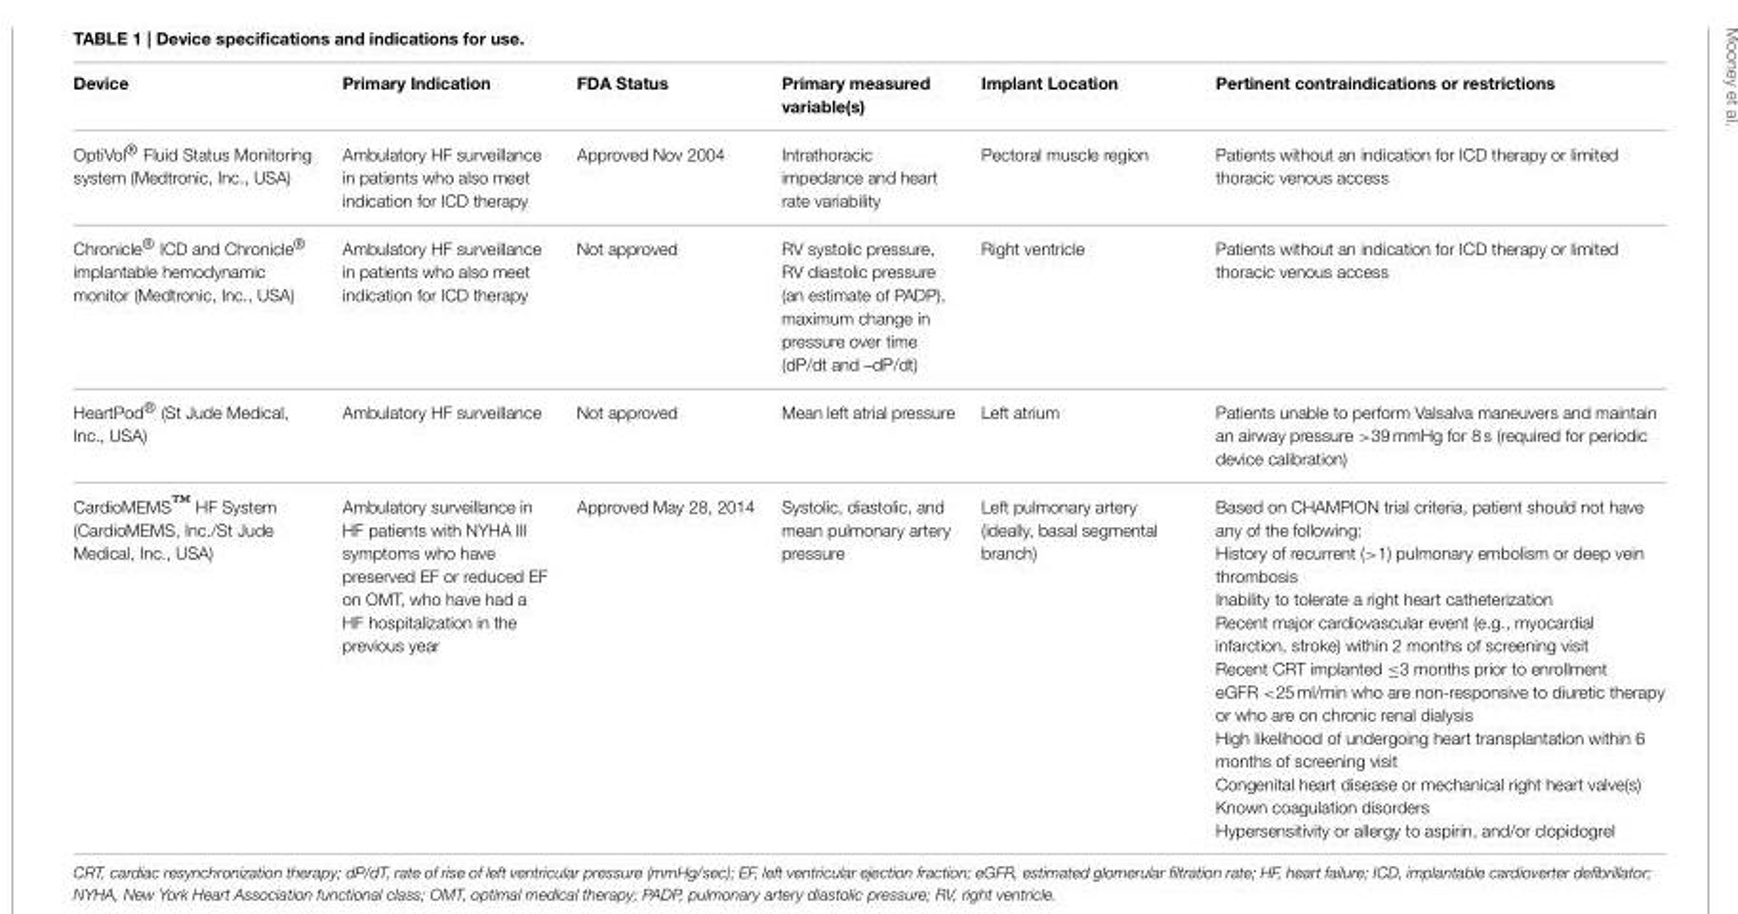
<table><thead><tr><td>Device</td><td>Primary Indication</td><td>FDA Status</td><td>Primary measured variable(s)</td><td>Implant Location</td><td>Pertinent contraindications or restrictions</td></tr></thead><tbody><tr><td>OptiVol® Fluid Status Monitoring system (Medtronic, Inc., USA)</td><td>Ambulatory HF surveillance in patients who also meet indication for ICD therapy</td><td>Approved Nov 2004</td><td>Intrathoracic impedance and heart rate variability</td><td>Pectoral muscle region</td><td>Patients without an indication for ICD therapy or limited thoracic venous access</td></tr><tr><td>Chronicle® ICD and Chronicle® implantable hemodynamic monitor (Medtronic, Inc., USA)</td><td>Ambulatory HF surveillance in patients who also meet indication for ICD therapy</td><td>Not approved</td><td>RV systolic pressure, RV diastolic pressure (an estimate of PADP), maximum change in pressure over time (dP/dt and –dP/dt)</td><td>Right ventricle</td><td>Patients without an indication for ICD therapy or limited thoracic venous access</td></tr><tr><td>HeartPod® (St Jude Medical, Inc., USA)</td><td>Ambulatory HF surveillance</td><td>Not approved</td><td>Mean left atrial pressure</td><td>Left atrium</td><td>Patients unable to perform Valsalva maneuvers and maintain an airway pressure &gt;39 mmHg for 8 s (required for periodic device calibration)</td></tr><tr><td>CardioMEMS™ HF System (CardioMEMS, Inc./St Jude Medical, Inc., USA)</td><td>Ambulatory surveillance in HF patients with NYHA III symptoms who have preserved EF or reduced EF on OMT, who have had a HF hospitalization in the previous year</td><td>Approved May 28, 2014</td><td>Systolic, diastolic, and mean pulmonary artery pressure</td><td>Left pulmonary artery (ideally, basal segmental branch)</td><td>Based on CHAMPION trial criteria, patient should not have any of the following: History of recurrent (&gt;1) pulmonary embolism or deep vein thrombosis Inability to tolerate a right heart catheterization Recent major cardiovascular event (e.g., myocardial infarction, stroke) within 2 months of screening visit Recent CRT implanted ≤3 months prior to enrollment eGFR &lt;25 ml/min who are non-responsive to diuretic therapy or who are on chronic renal dialysis High likelihood of undergoing heart transplantation within 6 months of screening visit Congenital heart disease or mechanical right heart valve(s) Known coagulation disorders Hypersensitivity or allergy to aspirin, and/or clopidogrel</td></tr></tbody></table>